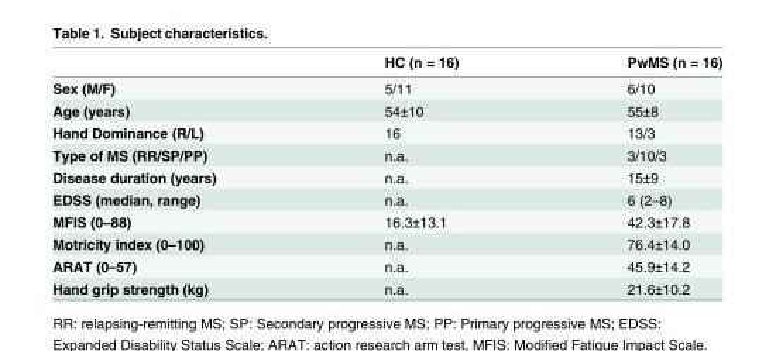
<table><thead><tr><td></td><td>HC (n = 16)</td><td>PwMS (n = 16)</td></tr></thead><tbody><tr><td>Sex (M/F)</td><td>5/11</td><td>6/10</td></tr><tr><td>Age (years)</td><td>54±10</td><td>55±8</td></tr><tr><td>Hand Dominance (R/L)</td><td>16</td><td>13/3</td></tr><tr><td>Type of MS (RR/SP/PP)</td><td>n.a.</td><td>3/10/3</td></tr><tr><td>Disease duration (years)</td><td>n.a.</td><td>15±9</td></tr><tr><td>EDSS (median, range)</td><td>n.a.</td><td>6 (2–8)</td></tr><tr><td>MFIS (0–88)</td><td>16.3±13.1</td><td>42.3±17.8</td></tr><tr><td>Motricity index (0–100)</td><td>n.a.</td><td>76.4±14.0</td></tr><tr><td>ARAT (0–57)</td><td>n.a.</td><td>45.9±14.2</td></tr><tr><td>Hand grip strength (kg)</td><td>n.a.</td><td>21.6±10.2</td></tr></tbody></table>